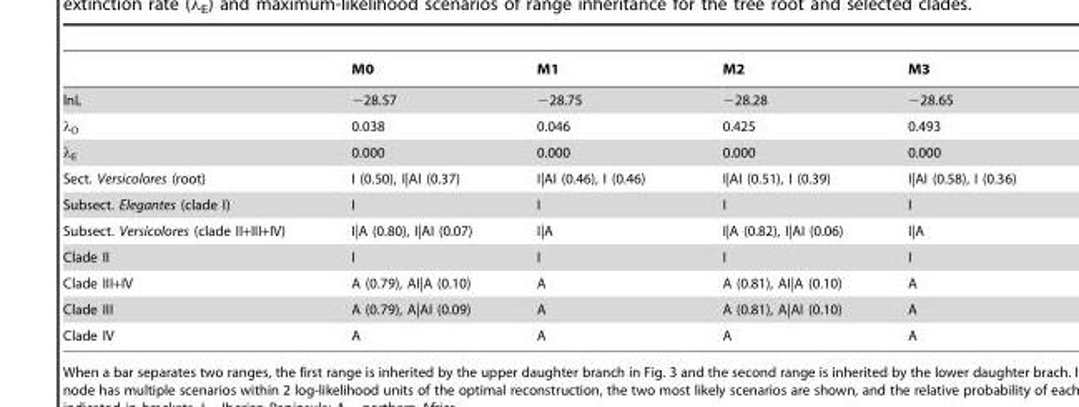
<table><thead><tr><td></td><td>M0</td><td>M1</td><td>M2</td><td>M3</td></tr></thead><tbody><tr><td>lnL</td><td>−28.57</td><td>−28.75</td><td>−28.28</td><td>−28.65</td></tr><tr><td>λ<sub>D</sub></td><td>0.038</td><td>0.046</td><td>0.425</td><td>0.493</td></tr><tr><td>λ<sub>E</sub></td><td>0.000</td><td>0.000</td><td>0.000</td><td>0.000</td></tr><tr><td>Sect. Versicolores (root)</td><td>I (0.50), I|AI (0.37)</td><td>I|AI (0.46), I (0.46)</td><td>I|AI (0.51), I (0.39)</td><td>I|AI (0.58), I (0.36)</td></tr><tr><td>Subsect. Elegantes (clade I)</td><td>I</td><td>I</td><td>I</td><td>I</td></tr><tr><td>Subsect. Versicolores (clade II+III+IV)</td><td>I|A (0.80), I|AI (0.07)</td><td>I|A</td><td>I|A (0.82), I|AI (0.06)</td><td>I|A</td></tr><tr><td>Clade II</td><td>I</td><td>I</td><td>I</td><td>I</td></tr><tr><td>Clade III+IV</td><td>A (0.79), AI|A (0.10)</td><td>A</td><td>A (0.81), AI|A (0.10)</td><td>A</td></tr><tr><td>Clade III</td><td>A (0.79), A|AI (0.09)</td><td>A</td><td>A (0.81), A|AI (0.10)</td><td>A</td></tr><tr><td>Clade IV</td><td>A</td><td>A</td><td>A</td><td>A</td></tr></tbody></table>